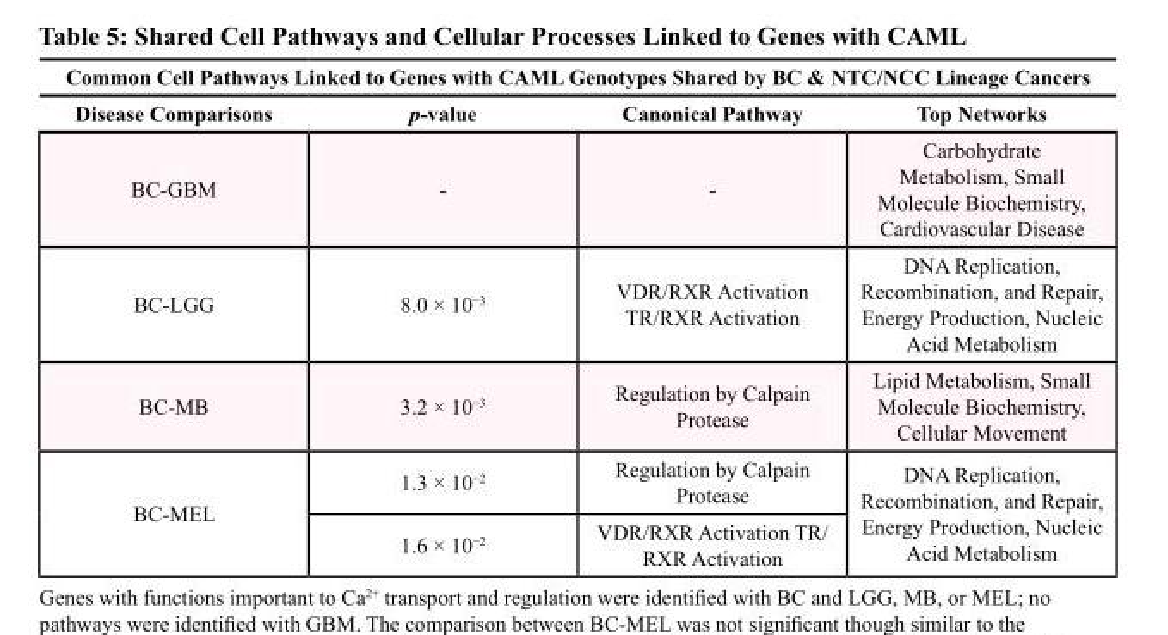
<table><thead><tr><td colspan="4">Common Cell Pathways Linked to Genes with CAML Genotypes Shared by BC &amp; NTC/NCC Lineage Cancers</td></tr><tr><td>Disease Comparisons</td><td>p-value</td><td>Canonical Pathway</td><td>Top Networks</td></tr></thead><tbody><tr><td>BC-GBM</td><td>-</td><td>-</td><td>Carbohydrate Metabolism, Small Molecule Biochemistry, Cardiovascular Disease</td></tr><tr><td>BC-LGG</td><td>8.0 × 10<sup>−3</sup></td><td>VDR/RXR Activation TR/RXR Activation</td><td>DNA Replication, Recombination, and Repair, Energy Production, Nucleic Acid Metabolism</td></tr><tr><td>BC-MB</td><td>3.2 × 10<sup>−3</sup></td><td>Regulation by Calpain Protease</td><td>Lipid Metabolism, Small Molecule Biochemistry, Cellular Movement</td></tr><tr><td rowspan="2">BC-MEL</td><td>1.3 × 10<sup>−2</sup></td><td>Regulation by Calpain Protease</td><td rowspan="2">DNA Replication, Recombination, and Repair, Energy Production, Nucleic Acid Metabolism</td></tr><tr><td>1.6 × 10<sup>−2</sup></td><td>VDR/RXR Activation TR/ RXR Activation</td></tr></tbody></table>